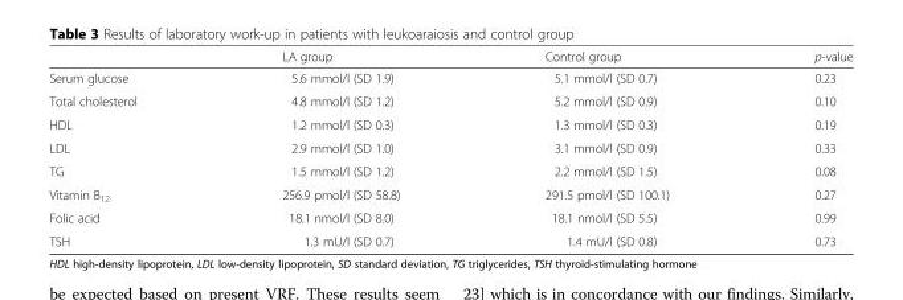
<table><thead><tr><td></td><td>LA group</td><td>Control group</td><td>p-value</td></tr></thead><tbody><tr><td>Serum glucose</td><td>5.6 mmol/l (SD 1.9)</td><td>5.1 mmol/l (SD 0.7)</td><td>0.23</td></tr><tr><td>Total cholesterol</td><td>4.8 mmol/l (SD 1.2)</td><td>5.2 mmol/l (SD 0.9)</td><td>0.10</td></tr><tr><td>HDL</td><td>1.2 mmol/l (SD 0.3)</td><td>1.3 mmol/l (SD 0.3)</td><td>0.19</td></tr><tr><td>LDL</td><td>2.9 mmol/l (SD 1.0)</td><td>3.1 mmol/l (SD 0.9)</td><td>0.33</td></tr><tr><td>TG</td><td>1.5 mmol/l (SD 1.2)</td><td>2.2 mmol/l (SD 1.5)</td><td>0.08</td></tr><tr><td>Vitamin B<sub>12</sub></td><td>256.9 pmol/l (SD 58.8)</td><td>291.5 pmol/l (SD 100.1)</td><td>0.27</td></tr><tr><td>Folic acid</td><td>18.1 nmol/l (SD 8.0)</td><td>18.1 nmol/l (SD 5.5)</td><td>0.99</td></tr><tr><td>TSH</td><td>1.3 mU/l (SD 0.7)</td><td>1.4 mU/l (SD 0.8)</td><td>0.73</td></tr></tbody></table>